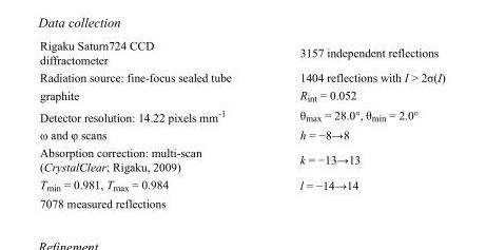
<table><tbody><tr><td>Rigaku Saturn724 CCD diffractometer</td><td>3157 independent reflections</td></tr><tr><td>Radiation source: fine-focus sealed tube</td><td>1404 reflections with I &gt; 2σ(I)</td></tr><tr><td>graphite</td><td>R<sub>int</sub> = 0.052</td></tr><tr><td>Detector resolution: 14.22 pixels mm<sup>-1</sup></td><td>θ<sub>max</sub> = 28.0°, θ<sub>min</sub> = 2.0°</td></tr><tr><td>ω and φ scans</td><td>h = −8→8</td></tr><tr><td>Absorption correction: multi-scan (CrystalClear; Rigaku, 2009)</td><td>k = −13→13</td></tr><tr><td>T<sub>min</sub> = 0.981, T<sub>max</sub> = 0.984</td><td>l = −14→14</td></tr><tr><td>7078 measured reflections</td><td></td></tr></tbody></table>